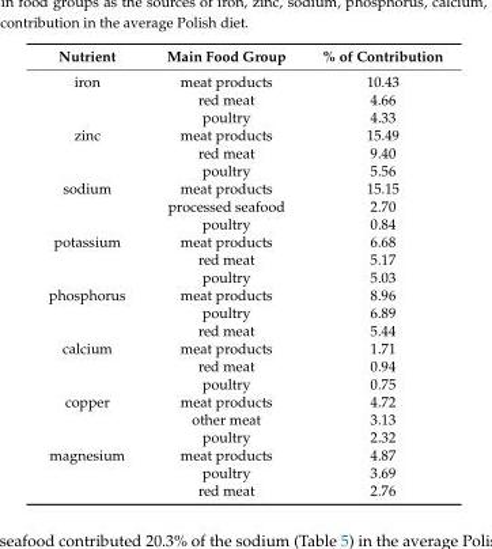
<table><thead><tr><td>Nutrient</td><td>Main Food Group</td><td>% of Contribution</td></tr></thead><tbody><tr><td rowspan="3">iron</td><td>meat products</td><td>10.43</td></tr><tr><td>red meat</td><td>4.66</td></tr><tr><td>poultry</td><td>4.33</td></tr><tr><td rowspan="3">zinc</td><td>meat products</td><td>15.49</td></tr><tr><td>red meat</td><td>9.40</td></tr><tr><td>poultry</td><td>5.56</td></tr><tr><td rowspan="3">sodium</td><td>meat products</td><td>15.15</td></tr><tr><td>processed seafood</td><td>2.70</td></tr><tr><td>poultry</td><td>0.84</td></tr><tr><td rowspan="3">potassium</td><td>meat products</td><td>6.68</td></tr><tr><td>red meat</td><td>5.17</td></tr><tr><td>poultry</td><td>5.03</td></tr><tr><td rowspan="3">phosphorus</td><td>meat products</td><td>8.96</td></tr><tr><td>poultry</td><td>6.89</td></tr><tr><td>red meat</td><td>5.44</td></tr><tr><td rowspan="3">calcium</td><td>meat products</td><td>1.71</td></tr><tr><td>red meat</td><td>0.94</td></tr><tr><td>poultry</td><td>0.75</td></tr><tr><td rowspan="3">copper</td><td>meat products</td><td>4.72</td></tr><tr><td>other meat</td><td>3.13</td></tr><tr><td>poultry</td><td>2.32</td></tr><tr><td rowspan="3">magnesium</td><td>meat products</td><td>4.87</td></tr><tr><td>poultry</td><td>3.69</td></tr><tr><td>red meat</td><td>2.76</td></tr></tbody></table>